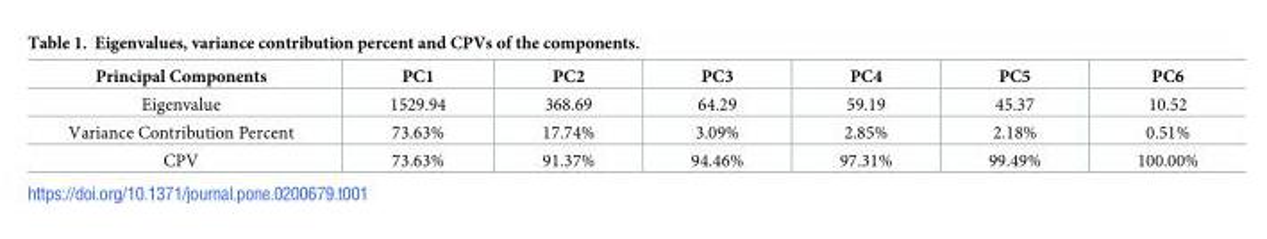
<table><thead><tr><td>Principal Components</td><td>PC1</td><td>PC2</td><td>PC3</td><td>PC4</td><td>PC5</td><td>PC6</td></tr></thead><tbody><tr><td>Eigenvalue</td><td>1529.94</td><td>368.69</td><td>64.29</td><td>59.19</td><td>45.37</td><td>10.52</td></tr><tr><td>Variance Contribution Percent</td><td>73.63%</td><td>17.74%</td><td>3.09%</td><td>2.85%</td><td>2.18%</td><td>0.51%</td></tr><tr><td>CPV</td><td>73.63%</td><td>91.37%</td><td>94.46%</td><td>97.31%</td><td>99.49%</td><td>100.00%</td></tr></tbody></table>